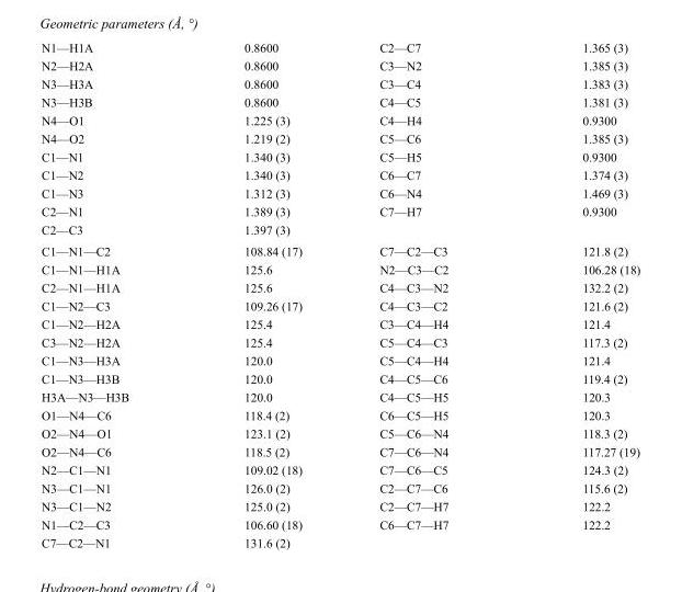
<table><tbody><tr><td>N1—H1A</td><td>0.8600</td><td>C2—C7</td><td>1.365 (3)</td></tr><tr><td>N2—H2A</td><td>0.8600</td><td>C3—N2</td><td>1.385 (3)</td></tr><tr><td>N3—H3A</td><td>0.8600</td><td>C3—C4</td><td>1.383 (3)</td></tr><tr><td>N3—H3B</td><td>0.8600</td><td>C4—C5</td><td>1.381 (3)</td></tr><tr><td>N4—O1</td><td>1.225 (3)</td><td>C4—H4</td><td>0.9300</td></tr><tr><td>N4—O2</td><td>1.219 (2)</td><td>C5—C6</td><td>1.385 (3)</td></tr><tr><td>C1—N1</td><td>1.340 (3)</td><td>C5—H5</td><td>0.9300</td></tr><tr><td>C1—N2</td><td>1.340 (3)</td><td>C6—C7</td><td>1.374 (3)</td></tr><tr><td>C1—N3</td><td>1.312 (3)</td><td>C6—N4</td><td>1.469 (3)</td></tr><tr><td>C2—N1</td><td>1.389 (3)</td><td>C7—H7</td><td>0.9300</td></tr><tr><td>C2—C3</td><td>1.397 (3)</td><td></td><td></td></tr><tr><td>C1—N1—C2</td><td>108.84 (17)</td><td>C7—C2—C3</td><td>121.8 (2)</td></tr><tr><td>C1—N1—H1A</td><td>125.6</td><td>N2—C3—C2</td><td>106.28 (18)</td></tr><tr><td>C2—N1—H1A</td><td>125.6</td><td>C4—C3—N2</td><td>132.2 (2)</td></tr><tr><td>C1—N2—C3</td><td>109.26 (17)</td><td>C4—C3—C2</td><td>121.6 (2)</td></tr><tr><td>C1—N2—H2A</td><td>125.4</td><td>C3—C4—H4</td><td>121.4</td></tr><tr><td>C3—N2—H2A</td><td>125.4</td><td>C5—C4—C3</td><td>117.3 (2)</td></tr><tr><td>C1—N3—H3A</td><td>120.0</td><td>C5—C4—H4</td><td>121.4</td></tr><tr><td>C1—N3—H3B</td><td>120.0</td><td>C4—C5—C6</td><td>119.4 (2)</td></tr><tr><td>H3A—N3—H3B</td><td>120.0</td><td>C4—C5—H5</td><td>120.3</td></tr><tr><td>O1—N4—C6</td><td>118.4 (2)</td><td>C6—C5—H5</td><td>120.3</td></tr><tr><td>O2—N4—O1</td><td>123.1 (2)</td><td>C5—C6—N4</td><td>118.3 (2)</td></tr><tr><td>O2—N4—C6</td><td>118.5 (2)</td><td>C7—C6—N4</td><td>117.27 (19)</td></tr><tr><td>N2—C1—N1</td><td>109.02 (18)</td><td>C7—C6—C5</td><td>124.3 (2)</td></tr><tr><td>N3—C1—N1</td><td>126.0 (2)</td><td>C2—C7—C6</td><td>115.6 (2)</td></tr><tr><td>N3—C1—N2</td><td>125.0 (2)</td><td>C2—C7—H7</td><td>122.2</td></tr><tr><td>N1—C2—C3</td><td>106.60 (18)</td><td>C6—C7—H7</td><td>122.2</td></tr><tr><td>C7—C2—N1</td><td>131.6 (2)</td><td></td><td></td></tr></tbody></table>